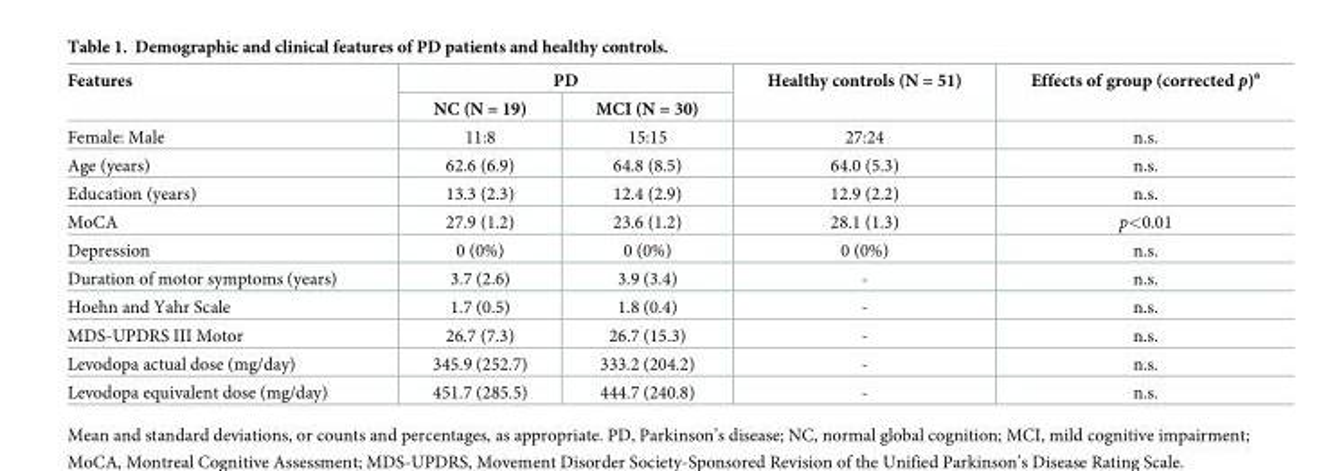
<table><thead><tr><td rowspan="2">Features</td><td colspan="2">PD</td><td rowspan="2">Healthy controls (N = 51)</td><td rowspan="2">Effects of group (corrected p)<sup>a</sup></td></tr><tr><td>NC (N = 19)</td><td>MCI (N = 30)</td></tr></thead><tbody><tr><td>Female: Male</td><td>11:8</td><td>15:15</td><td>27:24</td><td>n.s.</td></tr><tr><td>Age (years)</td><td>62.6 (6.9)</td><td>64.8 (8.5)</td><td>64.0 (5.3)</td><td>n.s.</td></tr><tr><td>Education (years)</td><td>13.3 (2.3)</td><td>12.4 (2.9)</td><td>12.9 (2.2)</td><td>n.s.</td></tr><tr><td>MoCA</td><td>27.9 (1.2)</td><td>23.6 (1.2)</td><td>28.1 (1.3)</td><td>p&lt;0.01</td></tr><tr><td>Depression</td><td>0 (0%)</td><td>0 (0%)</td><td>0 (0%)</td><td>n.s.</td></tr><tr><td>Duration of motor symptoms (years)</td><td>3.7 (2.6)</td><td>3.9 (3.4)</td><td>-</td><td>n.s.</td></tr><tr><td>Hoehn and Yahr Scale</td><td>1.7 (0.5)</td><td>1.8 (0.4)</td><td>-</td><td>n.s.</td></tr><tr><td>MDS-UPDRS III Motor</td><td>26.7 (7.3)</td><td>26.7 (15.3)</td><td>-</td><td>n.s.</td></tr><tr><td>Levodopa actual dose (mg/day)</td><td>345.9 (252.7)</td><td>333.2 (204.2)</td><td>-</td><td>n.s.</td></tr><tr><td>Levodopa equivalent dose (mg/day)</td><td>451.7 (285.5)</td><td>444.7 (240.8)</td><td>-</td><td>n.s.</td></tr></tbody></table>